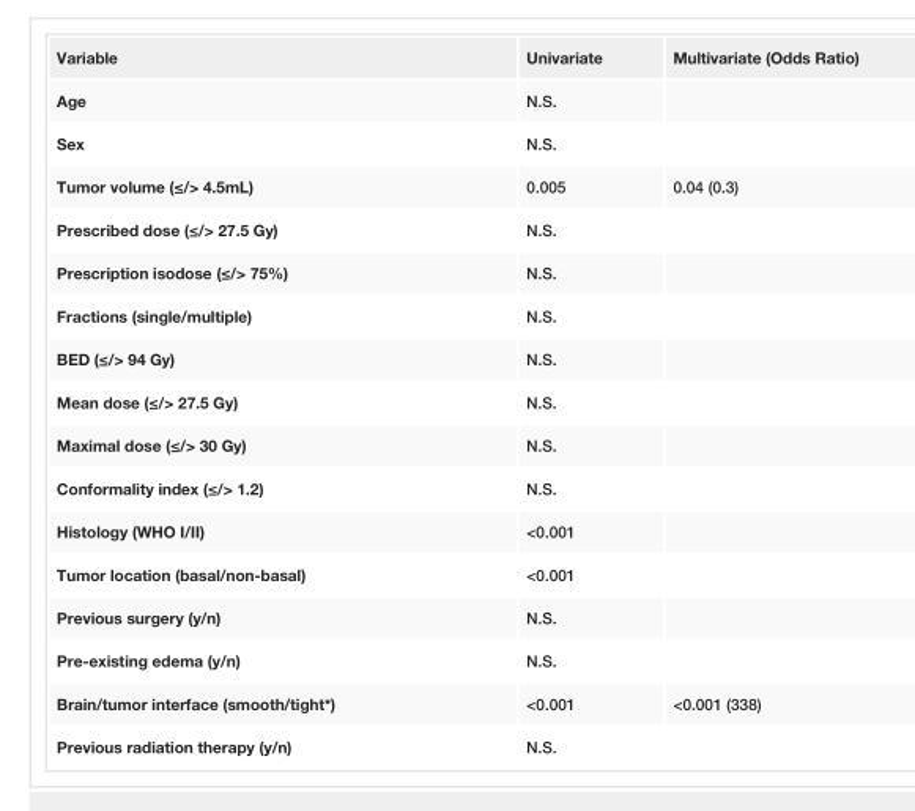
<table><tbody><tr><td>Variable</td><td>Univariate</td><td>Multivariate (Odds Ratio)</td></tr><tr><td>Age</td><td>N.S.</td><td></td></tr><tr><td>Sex</td><td>N.S.</td><td></td></tr><tr><td>Tumor volume (≤/&gt; 4.5mL)</td><td>0.005</td><td>0.04 (0.3)</td></tr><tr><td>Prescribed dose (≤/&gt; 27.5 Gy)</td><td>N.S.</td><td></td></tr><tr><td>Prescription isodose (≤/&gt; 75%)</td><td>N.S.</td><td></td></tr><tr><td>Fractions (single/multiple)</td><td>N.S.</td><td></td></tr><tr><td>BED (≤/&gt; 94 Gy)</td><td>N.S.</td><td></td></tr><tr><td>Mean dose (≤/&gt; 27.5 Gy)</td><td>N.S.</td><td></td></tr><tr><td>Maximal dose (≤/&gt; 30 Gy)</td><td>N.S.</td><td></td></tr><tr><td>Conformality index (≤/&gt; 1.2)</td><td>N.S.</td><td></td></tr><tr><td>Histology (WHO I/II)</td><td>&lt;0.001</td><td></td></tr><tr><td>Tumor location (basal/non-basal)</td><td>&lt;0.001</td><td></td></tr><tr><td>Previous surgery (y/n)</td><td>N.S.</td><td></td></tr><tr><td>Pre-existing edema (y/n)</td><td>N.S.</td><td></td></tr><tr><td>Brain/tumor interface (smooth/tight*)</td><td>&lt;0.001</td><td>&lt;0.001 (338)</td></tr><tr><td>Previous radiation therapy (y/n)</td><td>N.S.</td><td></td></tr></tbody></table>